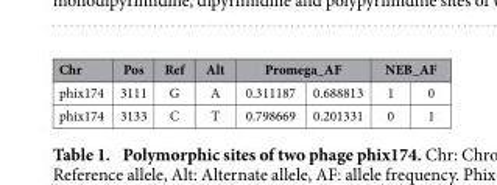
<table><thead><tr><td rowspan="2">Chr phix174</td><td rowspan="2">Pos 3111</td><td rowspan="2">Ref G</td><td rowspan="2">Alt A</td><td colspan="2">Promega_AF</td><td colspan="2">NEB_AF</td></tr><tr><td>0.311187</td><td>0.688813</td><td>1</td><td>0</td></tr></thead><tbody><tr><td>phix174</td><td>3133</td><td>C</td><td>T</td><td>0.798669</td><td>0.201331</td><td>0</td><td>1</td></tr></tbody></table>